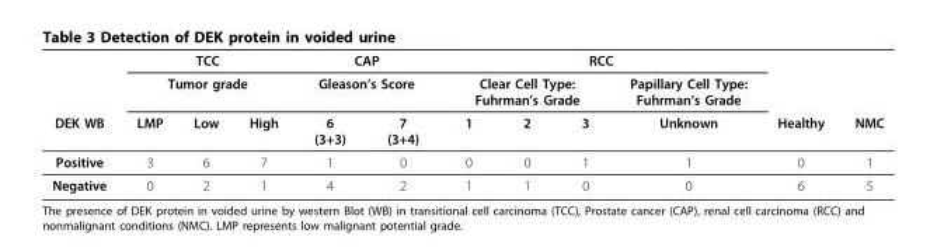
<table><thead><tr><td rowspan="3">DEK WB</td><td rowspan="2" colspan="3">TCC Tumor grade</td><td rowspan="2" colspan="2">CAP Gleason’s Score</td><td colspan="4">RCC</td><td rowspan="3">Healthy</td><td rowspan="3">NMC</td></tr><tr><td colspan="3">Clear Cell Type: Fuhrman’s Grade</td><td rowspan="2">Papillary Cell Type: Fuhrman’s Grade Unknown</td></tr><tr><td>LMP</td><td>Low</td><td>High</td><td>6 (3+3)</td><td>7 (3+4)</td><td>1</td><td>2</td><td>3</td></tr></thead><tbody><tr><td>Positive</td><td>3</td><td>6</td><td>7</td><td>1</td><td>0</td><td>0</td><td>0</td><td>1</td><td>1</td><td>0</td><td>1</td></tr><tr><td>Negative</td><td>0</td><td>2</td><td>1</td><td>4</td><td>2</td><td>1</td><td>1</td><td>0</td><td>0</td><td>6</td><td>5</td></tr></tbody></table>